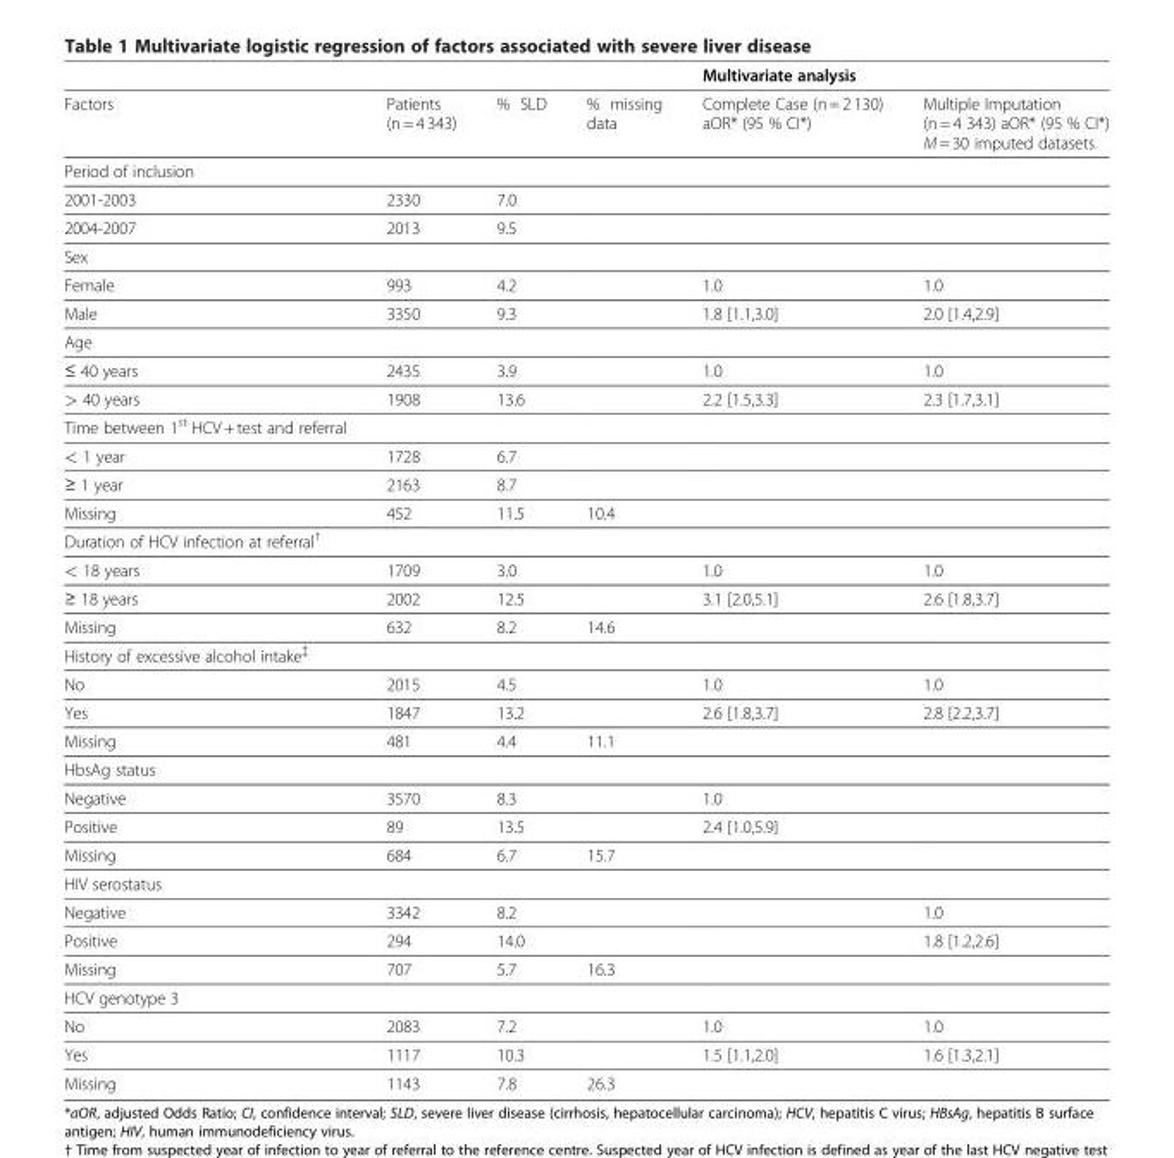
<table><thead><tr><td rowspan="2">Factors</td><td rowspan="2">Patients (n = 4 343)</td><td rowspan="2">% SLD</td><td rowspan="2">% missing data</td><td colspan="2">Multivariate analysis</td></tr><tr><td>Complete Case (n = 2 130) aOR* (95 % CI*)</td><td>Multiple Imputation (n = 4 343) aOR* (95 % CI*) M = 30 imputed datasets</td></tr></thead><tbody><tr><td colspan="6">Period of inclusion</td></tr><tr><td>2001-2003</td><td>2330</td><td>7.0</td><td></td><td></td><td></td></tr><tr><td>2004-2007</td><td>2013</td><td>9.5</td><td></td><td></td><td></td></tr><tr><td colspan="6">Sex</td></tr><tr><td>Female</td><td>993</td><td>4.2</td><td></td><td>1.0</td><td>1.0</td></tr><tr><td>Male</td><td>3350</td><td>9.3</td><td></td><td>1.8 [1.1,3.0]</td><td>2.0 [1.4,2.9]</td></tr><tr><td colspan="6">Age</td></tr><tr><td>≤ 40 years</td><td>2435</td><td>3.9</td><td></td><td>1.0</td><td>1.0</td></tr><tr><td>&gt; 40 years</td><td>1908</td><td>13.6</td><td></td><td>2.2 [1.5,3.3]</td><td>2.3 [1.7,3.1]</td></tr><tr><td colspan="6">Time between 1<sup>st</sup> HCV + test and referral</td></tr><tr><td>&lt; 1 year</td><td>1728</td><td>6.7</td><td></td><td></td><td></td></tr><tr><td>≥ 1 year</td><td>2163</td><td>8.7</td><td></td><td></td><td></td></tr><tr><td>Missing</td><td>452</td><td>11.5</td><td>10.4</td><td></td><td></td></tr><tr><td colspan="6">Duration of HCV infection at referral<sup>†</sup></td></tr><tr><td>&lt; 18 years</td><td>1709</td><td>3.0</td><td></td><td>1.0</td><td>1.0</td></tr><tr><td>≥ 18 years</td><td>2002</td><td>12.5</td><td></td><td>3.1 [2.0,5.1]</td><td>2.6 [1.8,3.7]</td></tr><tr><td>Missing</td><td>632</td><td>8.2</td><td>14.6</td><td></td><td></td></tr><tr><td colspan="6">History of excessive alcohol intake<sup>‡</sup></td></tr><tr><td>No</td><td>2015</td><td>4.5</td><td></td><td>1.0</td><td>1.0</td></tr><tr><td>Yes</td><td>1847</td><td>13.2</td><td></td><td>2.6 [1.8,3.7]</td><td>2.8 [2.2,3.7]</td></tr><tr><td>Missing</td><td>481</td><td>4.4</td><td>11.1</td><td></td><td></td></tr><tr><td colspan="6">HbsAg status</td></tr><tr><td>Negative</td><td>3570</td><td>8.3</td><td></td><td>1.0</td><td></td></tr><tr><td>Positive</td><td>89</td><td>13.5</td><td></td><td>2.4 [1.0,5.9]</td><td></td></tr><tr><td>Missing</td><td>684</td><td>6.7</td><td>15.7</td><td></td><td></td></tr><tr><td colspan="6">HIV serostatus</td></tr><tr><td>Negative</td><td>3342</td><td>8.2</td><td></td><td></td><td>1.0</td></tr><tr><td>Positive</td><td>294</td><td>14.0</td><td></td><td></td><td>1.8 [1.2,2.6]</td></tr><tr><td>Missing</td><td>707</td><td>5.7</td><td>16.3</td><td></td><td></td></tr><tr><td colspan="6">HCV genotype 3</td></tr><tr><td>No</td><td>2083</td><td>7.2</td><td></td><td>1.0</td><td>1.0</td></tr><tr><td>Yes</td><td>1117</td><td>10.3</td><td></td><td>1.5 [1.1,2.0]</td><td>1.6 [1.3,2.1]</td></tr><tr><td>Missing</td><td>1143</td><td>7.8</td><td>26.3</td><td></td><td></td></tr></tbody></table>